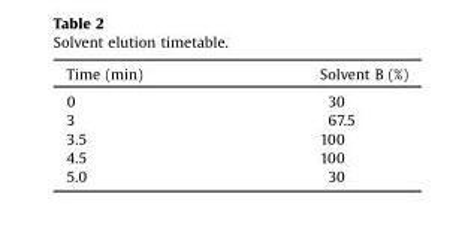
<table><thead><tr><td>Time (min)</td><td>Solvent B (%)</td></tr></thead><tbody><tr><td>0</td><td>30</td></tr><tr><td>3</td><td>67.5</td></tr><tr><td>3.5</td><td>100</td></tr><tr><td>4.5</td><td>100</td></tr><tr><td>5.0</td><td>30</td></tr></tbody></table>